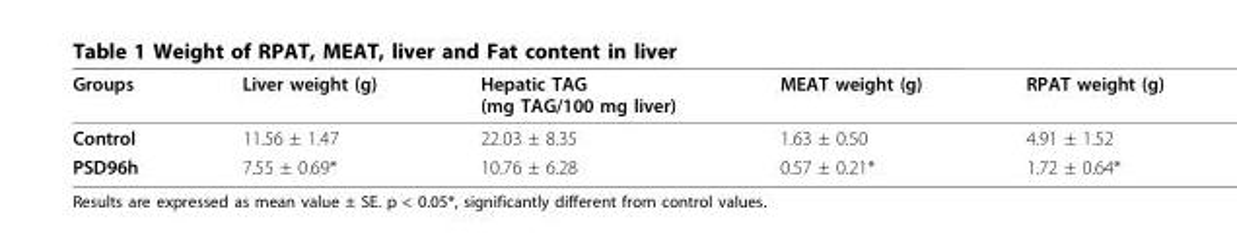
<table><thead><tr><td>Groups</td><td>Liver weight (g)</td><td>Hepatic TAG (mg TAG/100 mg liver)</td><td>MEAT weight (g)</td><td>RPAT weight (g)</td></tr></thead><tbody><tr><td>Control</td><td>11.56 ± 1.47</td><td>22.03 ± 8.35</td><td>1.63 ± 0.50</td><td>4.91 ± 1.52</td></tr><tr><td>PSD96h</td><td>7.55 ± 0.69*</td><td>10.76 ± 6.28</td><td>0.57 ± 0.21*</td><td>1.72 ± 0.64*</td></tr></tbody></table>